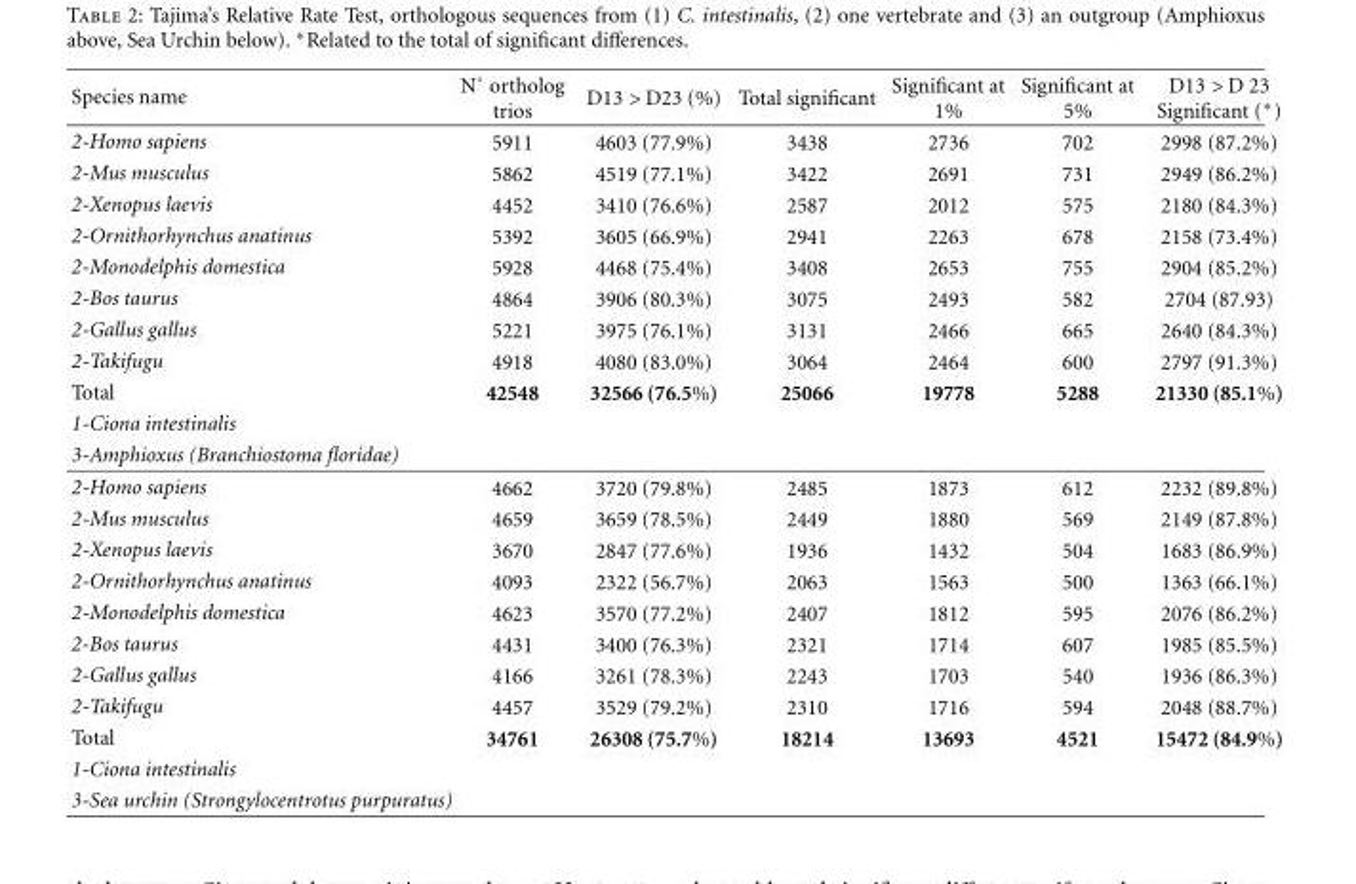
<table><thead><tr><td>Species name</td><td>N◦ ortholog trios</td><td>D13 &gt; D23 (%)</td><td>Total significant</td><td>Significant at 1%</td><td>Significant at 5%</td><td>D13 &gt; D 23 Significant (∗)</td></tr></thead><tbody><tr><td>2-Homo sapiens</td><td>5911</td><td>4603 (77.9%)</td><td>3438</td><td>2736</td><td>702</td><td>2998 (87.2%)</td></tr><tr><td>2-Mus musculus</td><td>5862</td><td>4519 (77.1%)</td><td>3422</td><td>2691</td><td>731</td><td>2949 (86.2%)</td></tr><tr><td>2-Xenopus laevis</td><td>4452</td><td>3410 (76.6%)</td><td>2587</td><td>2012</td><td>575</td><td>2180 (84.3%)</td></tr><tr><td>2-Ornithorhynchus anatinus</td><td>5392</td><td>3605 (66.9%)</td><td>2941</td><td>2263</td><td>678</td><td>2158 (73.4%)</td></tr><tr><td>2-Monodelphis domestica</td><td>5928</td><td>4468 (75.4%)</td><td>3408</td><td>2653</td><td>755</td><td>2904 (85.2%)</td></tr><tr><td>2-Bos taurus</td><td>4864</td><td>3906 (80.3%)</td><td>3075</td><td>2493</td><td>582</td><td>2704 (87.93)</td></tr><tr><td>2-Gallus gallus</td><td>5221</td><td>3975 (76.1%)</td><td>3131</td><td>2466</td><td>665</td><td>2640 (84.3%)</td></tr><tr><td>2-Takifugu</td><td>4918</td><td>4080 (83.0%)</td><td>3064</td><td>2464</td><td>600</td><td>2797 (91.3%)</td></tr><tr><td>Total</td><td>42548</td><td>32566 (76.5%)</td><td>25066</td><td>19778</td><td>5288</td><td>21330 (85.1%)</td></tr><tr><td colspan="7">1-Ciona intestinalis</td></tr><tr><td colspan="7">3-Amphioxus (Branchiostoma floridae)</td></tr><tr><td>2-Homo sapiens</td><td>4662</td><td>3720 (79.8%)</td><td>2485</td><td>1873</td><td>612</td><td>2232 (89.8%)</td></tr><tr><td>2-Mus musculus</td><td>4659</td><td>3659 (78.5%)</td><td>2449</td><td>1880</td><td>569</td><td>2149 (87.8%)</td></tr><tr><td>2-Xenopus laevis</td><td>3670</td><td>2847 (77.6%)</td><td>1936</td><td>1432</td><td>504</td><td>1683 (86.9%)</td></tr><tr><td>2-Ornithorhynchus anatinus</td><td>4093</td><td>2322 (56.7%)</td><td>2063</td><td>1563</td><td>500</td><td>1363 (66.1%)</td></tr><tr><td>2-Monodelphis domestica</td><td>4623</td><td>3570 (77.2%)</td><td>2407</td><td>1812</td><td>595</td><td>2076 (86.2%)</td></tr><tr><td>2-Bos taurus</td><td>4431</td><td>3400 (76.3%)</td><td>2321</td><td>1714</td><td>607</td><td>1985 (85.5%)</td></tr><tr><td>2-Gallus gallus</td><td>4166</td><td>3261 (78.3%)</td><td>2243</td><td>1703</td><td>540</td><td>1936 (86.3%)</td></tr><tr><td>2-Takifugu</td><td>4457</td><td>3529 (79.2%)</td><td>2310</td><td>1716</td><td>594</td><td>2048 (88.7%)</td></tr><tr><td>Total</td><td>34761</td><td>26308 (75.7%)</td><td>18214</td><td>13693</td><td>4521</td><td>15472 (84.9%)</td></tr><tr><td colspan="7">1-Ciona intestinalis</td></tr><tr><td>3-Sea urchin (Strongylocentrotus purpuratus)</td><td></td><td></td><td></td><td></td><td></td><td></td></tr></tbody></table>